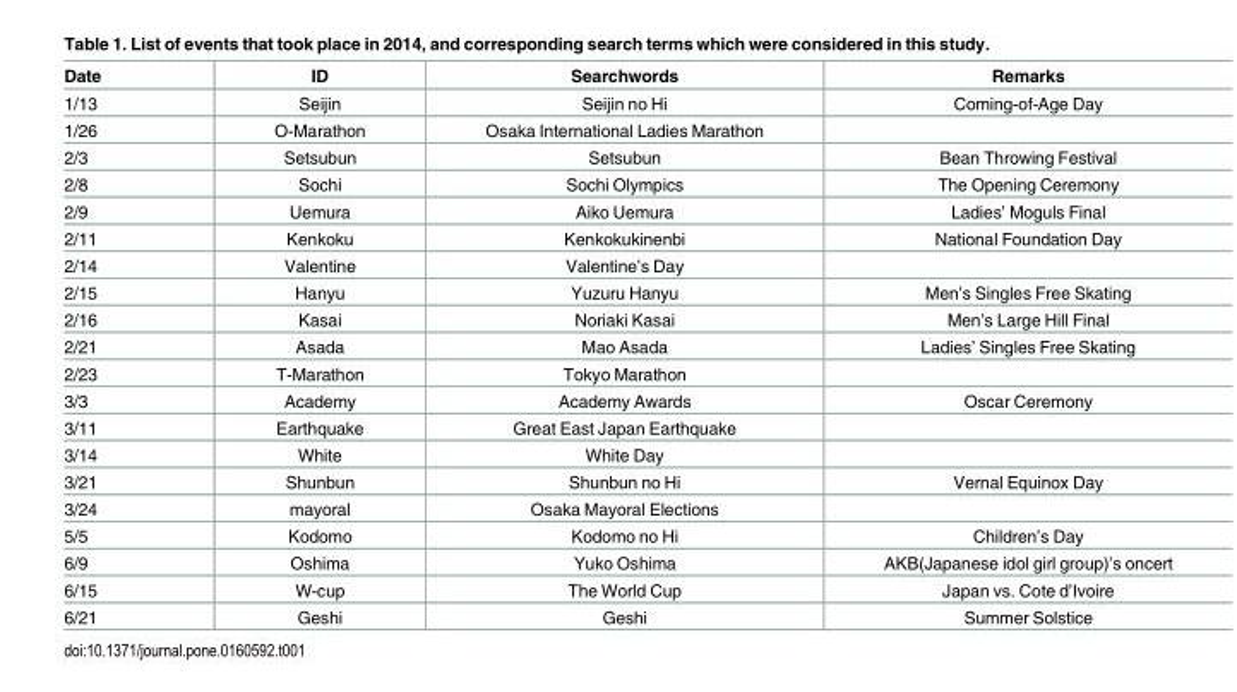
<table><thead><tr><td>Date</td><td>ID</td><td>Searchwords</td><td>Remarks</td></tr></thead><tbody><tr><td>1/13</td><td>Seijin</td><td>Seijin no Hi</td><td>Coming-of-Age Day</td></tr><tr><td>1/26</td><td>O-Marathon</td><td>Osaka International Ladies Marathon</td><td></td></tr><tr><td>2/3</td><td>Setsubun</td><td>Setsubun</td><td>Bean Throwing Festival</td></tr><tr><td>2/8</td><td>Sochi</td><td>Sochi Olympics</td><td>The Opening Ceremony</td></tr><tr><td>2/9</td><td>Uemura</td><td>Aiko Uemura</td><td>Ladies’ Moguls Final</td></tr><tr><td>2/11</td><td>Kenkoku</td><td>Kenkokukinenbi</td><td>National Foundation Day</td></tr><tr><td>2/14</td><td>Valentine</td><td>Valentine’s Day</td><td></td></tr><tr><td>2/15</td><td>Hanyu</td><td>Yuzuru Hanyu</td><td>Men’s Singles Free Skating</td></tr><tr><td>2/16</td><td>Kasai</td><td>Noriaki Kasai</td><td>Men’s Large Hill Final</td></tr><tr><td>2/21</td><td>Asada</td><td>Mao Asada</td><td>Ladies’ Singles Free Skating</td></tr><tr><td>2/23</td><td>T-Marathon</td><td>Tokyo Marathon</td><td></td></tr><tr><td>3/3</td><td>Academy</td><td>Academy Awards</td><td>Oscar Ceremony</td></tr><tr><td>3/11</td><td>Earthquake</td><td>Great East Japan Earthquake</td><td></td></tr><tr><td>3/14</td><td>White</td><td>White Day</td><td></td></tr><tr><td>3/21</td><td>Shunbun</td><td>Shunbun no Hi</td><td>Vernal Equinox Day</td></tr><tr><td>3/24</td><td>mayoral</td><td>Osaka Mayoral Elections</td><td></td></tr><tr><td>5/5</td><td>Kodomo</td><td>Kodomo no Hi</td><td>Children’s Day</td></tr><tr><td>6/9</td><td>Oshima</td><td>Yuko Oshima</td><td>AKB(Japanese idol girl group)’s oncert</td></tr><tr><td>6/15</td><td>W-cup</td><td>The World Cup</td><td>Japan vs. Cote d’Ivoire</td></tr><tr><td>6/21</td><td>Geshi</td><td>Geshi</td><td>Summer Solstice</td></tr></tbody></table>